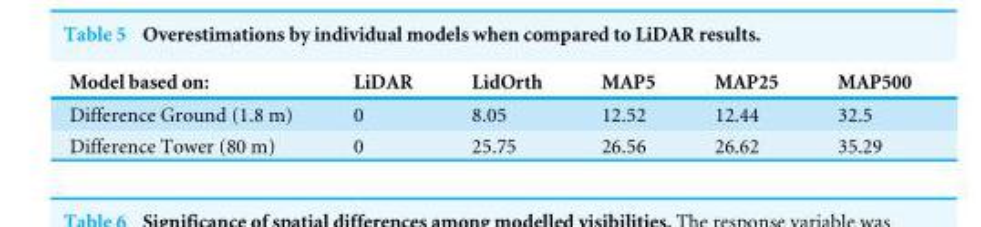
<table><thead><tr><td>Model based on:</td><td>LiDAR</td><td>LidOrth</td><td>MAP5</td><td>MAP25</td><td>MAP500</td></tr></thead><tbody><tr><td>Difference Ground (1.8 m)</td><td>0</td><td>8.05</td><td>12.52</td><td>12.44</td><td>32.5</td></tr><tr><td>Difference Tower (80 m)</td><td>0</td><td>25.75</td><td>26.56</td><td>26.62</td><td>35.29</td></tr></tbody></table>